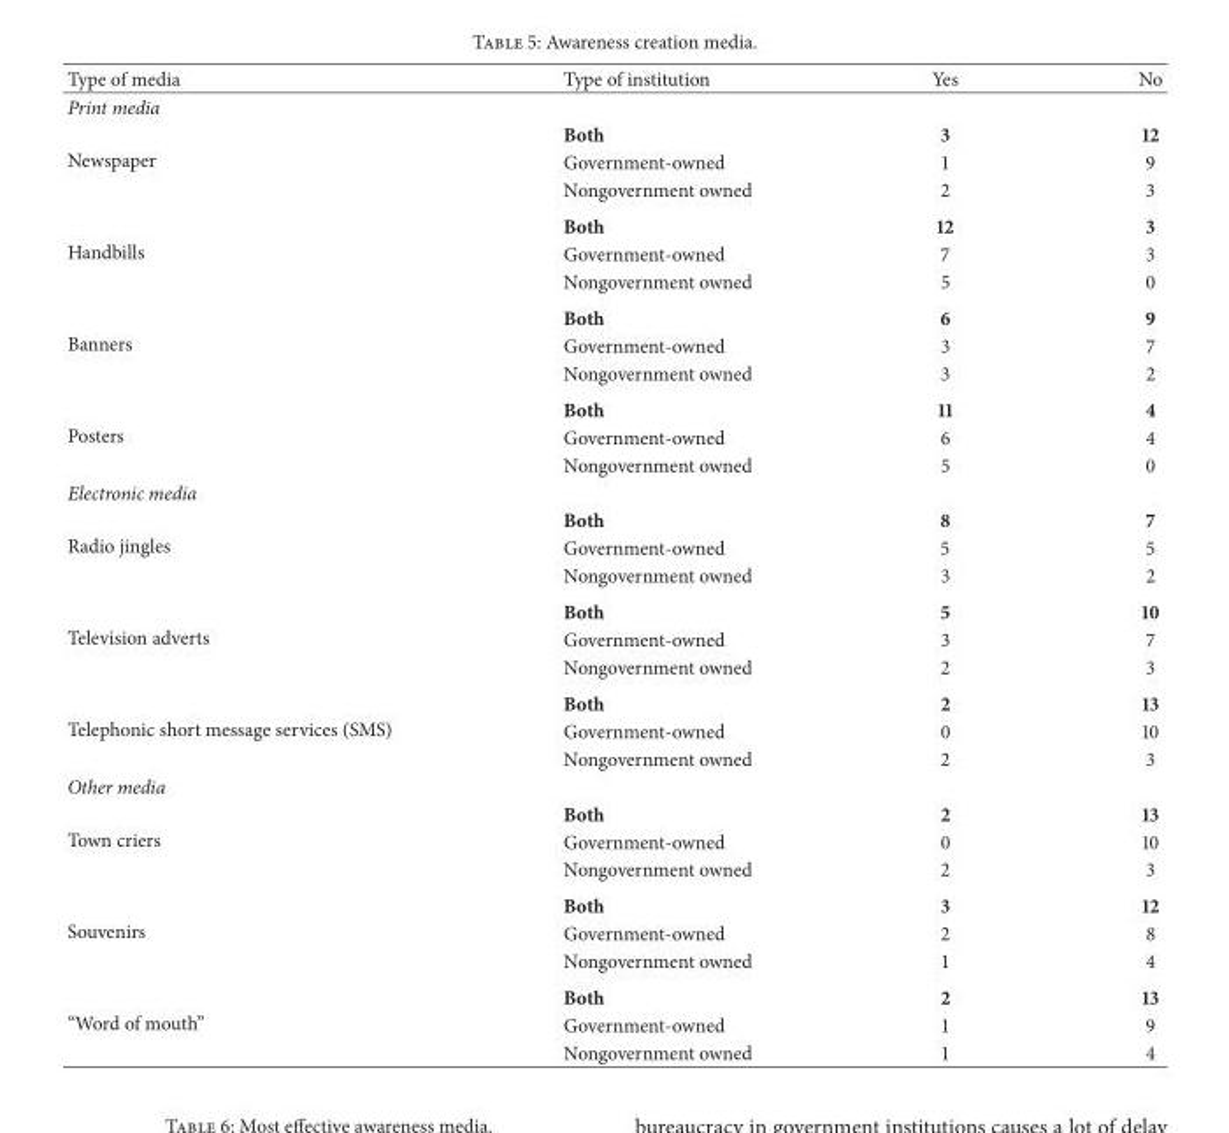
<table><thead><tr><td>Type of media</td><td>Type of institution</td><td>Yes</td><td>No</td></tr></thead><tbody><tr><td colspan="4">Print media</td></tr><tr><td rowspan="3">Newspaper</td><td>Both</td><td>3</td><td>12</td></tr><tr><td>Government-owned</td><td>1</td><td>9</td></tr><tr><td>Nongovernment owned</td><td>2</td><td>3</td></tr><tr><td rowspan="3">Handbills</td><td>Both</td><td>12</td><td>3</td></tr><tr><td>Government-owned</td><td>7</td><td>3</td></tr><tr><td>Nongovernment owned</td><td>5</td><td>0</td></tr><tr><td rowspan="3">Banners</td><td>Both</td><td>6</td><td>9</td></tr><tr><td>Government-owned</td><td>3</td><td>7</td></tr><tr><td>Nongovernment owned</td><td>3</td><td>2</td></tr><tr><td rowspan="3">Posters</td><td>Both</td><td>11</td><td>4</td></tr><tr><td>Government-owned</td><td>6</td><td>4</td></tr><tr><td>Nongovernment owned</td><td>5</td><td>0</td></tr><tr><td colspan="4">Electronic media</td></tr><tr><td rowspan="3">Radio jingles</td><td>Both</td><td>8</td><td>7</td></tr><tr><td>Government-owned</td><td>5</td><td>5</td></tr><tr><td>Nongovernment owned</td><td>3</td><td>2</td></tr><tr><td rowspan="3">Television adverts</td><td>Both</td><td>5</td><td>10</td></tr><tr><td>Government-owned</td><td>3</td><td>7</td></tr><tr><td>Nongovernment owned</td><td>2</td><td>3</td></tr><tr><td rowspan="3">Telephonic short message services (SMS)</td><td>Both</td><td>2</td><td>13</td></tr><tr><td>Government-owned</td><td>0</td><td>10</td></tr><tr><td>Nongovernment owned</td><td>2</td><td>3</td></tr><tr><td colspan="4">Other media</td></tr><tr><td rowspan="3">Town criers</td><td>Both</td><td>2</td><td>13</td></tr><tr><td>Government-owned</td><td>0</td><td>10</td></tr><tr><td>Nongovernment owned</td><td>2</td><td>3</td></tr><tr><td rowspan="3">Souvenirs</td><td>Both</td><td>3</td><td>12</td></tr><tr><td>Government-owned</td><td>2</td><td>8</td></tr><tr><td>Nongovernment owned</td><td>1</td><td>4</td></tr><tr><td rowspan="3">“Word of mouth”</td><td>Both</td><td>2</td><td>13</td></tr><tr><td>Government-owned</td><td>1</td><td>9</td></tr><tr><td>Nongovernment owned</td><td>1</td><td>4</td></tr></tbody></table>